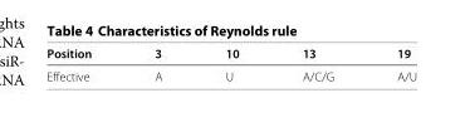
<table><thead><tr><td>Position</td><td>3</td><td>10</td><td>13</td><td>19</td></tr></thead><tbody><tr><td>Effective</td><td>A</td><td>U</td><td>A/C/G</td><td>A/U</td></tr></tbody></table>